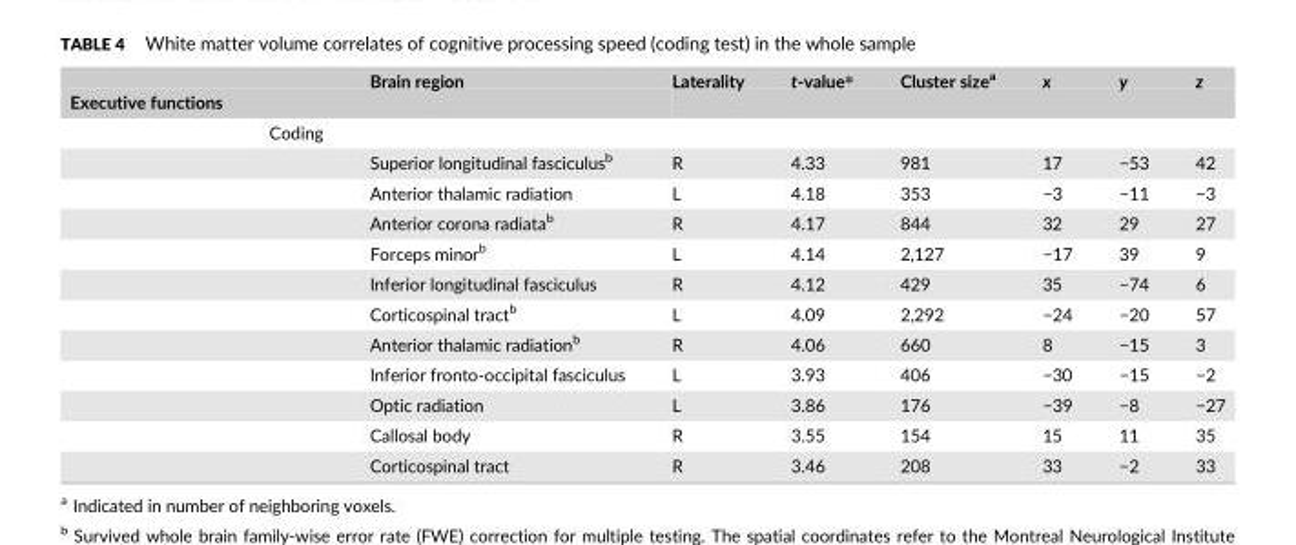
<table><thead><tr><td rowspan="2">Executive functions</td><td rowspan="2"></td><td rowspan="2">Brain region</td><td rowspan="2">Laterality</td><td rowspan="2">t-value*</td><td rowspan="2">Cluster size<sup>a</sup></td><td rowspan="2">x</td><td rowspan="2">y</td><td rowspan="2">z</td></tr><tr></tr></thead><tbody><tr><td></td><td>Coding</td><td></td><td></td><td></td><td></td><td></td><td></td><td></td></tr><tr><td></td><td></td><td>Superior longitudinal fasciculus<sup>b</sup></td><td>R</td><td>4.33</td><td>981</td><td>17</td><td>−53</td><td>42</td></tr><tr><td></td><td></td><td>Anterior thalamic radiation</td><td>L</td><td>4.18</td><td>353</td><td>−3</td><td>−11</td><td>−3</td></tr><tr><td></td><td></td><td>Anterior corona radiata<sup>b</sup></td><td>R</td><td>4.17</td><td>844</td><td>32</td><td>29</td><td>27</td></tr><tr><td></td><td></td><td>Forceps minor<sup>b</sup></td><td>L</td><td>4.14</td><td>2,127</td><td>−17</td><td>39</td><td>9</td></tr><tr><td></td><td></td><td>Inferior longitudinal fasciculus</td><td>R</td><td>4.12</td><td>429</td><td>35</td><td>−74</td><td>6</td></tr><tr><td></td><td></td><td>Corticospinal tract<sup>b</sup></td><td>L</td><td>4.09</td><td>2,292</td><td>−24</td><td>−20</td><td>57</td></tr><tr><td></td><td></td><td>Anterior thalamic radiation<sup>b</sup></td><td>R</td><td>4.06</td><td>660</td><td>8</td><td>−15</td><td>3</td></tr><tr><td></td><td></td><td>Inferior fronto-occipital fasciculus</td><td>L</td><td>3.93</td><td>406</td><td>−30</td><td>−15</td><td>−2</td></tr><tr><td></td><td></td><td>Optic radiation</td><td>L</td><td>3.86</td><td>176</td><td>−39</td><td>−8</td><td>−27</td></tr><tr><td></td><td></td><td>Callosal body</td><td>R</td><td>3.55</td><td>154</td><td>15</td><td>11</td><td>35</td></tr><tr><td></td><td></td><td>Corticospinal tract</td><td>R</td><td>3.46</td><td>208</td><td>33</td><td>−2</td><td>33</td></tr></tbody></table>